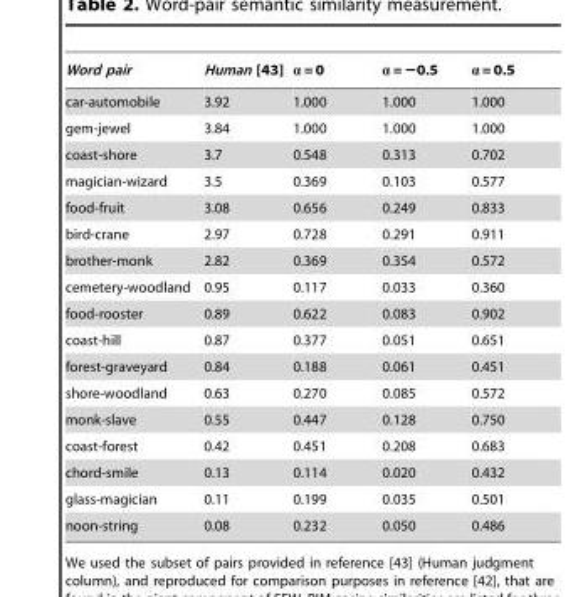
<table><thead><tr><td>Word pair</td><td>Human [43]</td><td>α = 0</td><td>α = −0.5</td><td>α = 0.5</td></tr></thead><tbody><tr><td>car-automobile</td><td>3.92</td><td>1.000</td><td>1.000</td><td>1.000</td></tr><tr><td>gem-jewel</td><td>3.84</td><td>1.000</td><td>1.000</td><td>1.000</td></tr><tr><td>coast-shore</td><td>3.7</td><td>0.548</td><td>0.313</td><td>0.702</td></tr><tr><td>magician-wizard</td><td>3.5</td><td>0.369</td><td>0.103</td><td>0.577</td></tr><tr><td>food-fruit</td><td>3.08</td><td>0.656</td><td>0.249</td><td>0.833</td></tr><tr><td>bird-crane</td><td>2.97</td><td>0.728</td><td>0.291</td><td>0.911</td></tr><tr><td>brother-monk</td><td>2.82</td><td>0.369</td><td>0.354</td><td>0.572</td></tr><tr><td>cemetery-woodland</td><td>0.95</td><td>0.117</td><td>0.033</td><td>0.360</td></tr><tr><td>food-rooster</td><td>0.89</td><td>0.622</td><td>0.083</td><td>0.902</td></tr><tr><td>coast-hill</td><td>0.87</td><td>0.377</td><td>0.051</td><td>0.651</td></tr><tr><td>forest-graveyard</td><td>0.84</td><td>0.188</td><td>0.061</td><td>0.451</td></tr><tr><td>shore-woodland</td><td>0.63</td><td>0.270</td><td>0.085</td><td>0.572</td></tr><tr><td>monk-slave</td><td>0.55</td><td>0.447</td><td>0.128</td><td>0.750</td></tr><tr><td>coast-forest</td><td>0.42</td><td>0.451</td><td>0.208</td><td>0.683</td></tr><tr><td>chord-smile</td><td>0.13</td><td>0.114</td><td>0.020</td><td>0.432</td></tr><tr><td>glass-magician</td><td>0.11</td><td>0.199</td><td>0.035</td><td>0.501</td></tr><tr><td>noon-string</td><td>0.08</td><td>0.232</td><td>0.050</td><td>0.486</td></tr></tbody></table>